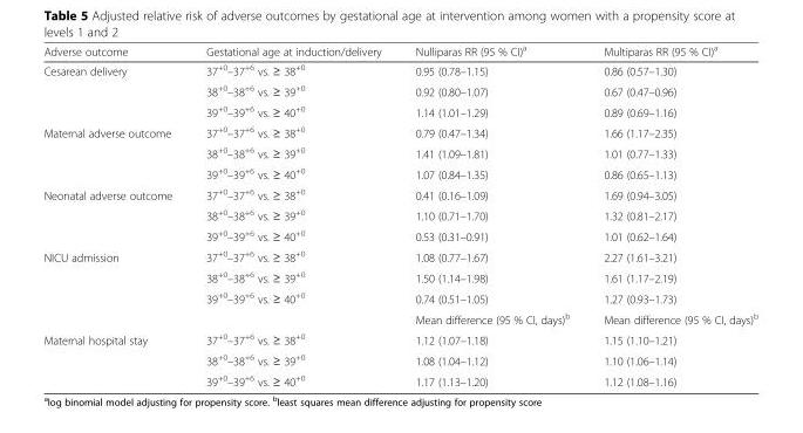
<table><thead><tr><td>Adverse outcome</td><td>Gestational age at induction/delivery</td><td>Nulliparas RR (95 % CI)<sup>a</sup></td><td>Multiparas RR (95 % CI)<sup>a</sup></td></tr></thead><tbody><tr><td rowspan="3">Cesarean delivery</td><td>37<sup>+0</sup>–37<sup>+6</sup> vs. ≥ 38<sup>+0</sup></td><td>0.95 (0.78–1.15)</td><td>0.86 (0.57–1.30)</td></tr><tr><td>38<sup>+0</sup>–38<sup>+6</sup> vs. ≥ 39<sup>+0</sup></td><td>0.92 (0.80–1.07)</td><td>0.67 (0.47–0.96)</td></tr><tr><td>39<sup>+0</sup>–39<sup>+6</sup> vs. ≥ 40<sup>+0</sup></td><td>1.14 (1.01–1.29)</td><td>0.89 (0.69–1.16)</td></tr><tr><td rowspan="3">Maternal adverse outcome</td><td>37<sup>+0</sup>–37<sup>+6</sup> vs. ≥ 38<sup>+0</sup></td><td>0.79 (0.47–1.34)</td><td>1.66 (1.17–2.35)</td></tr><tr><td>38<sup>+0</sup>–38<sup>+6</sup> vs. ≥ 39<sup>+0</sup></td><td>1.41 (1.09–1.81)</td><td>1.01 (0.77–1.33)</td></tr><tr><td>39<sup>+0</sup>–39<sup>+6</sup> vs. ≥ 40<sup>+0</sup></td><td>1.07 (0.84–1.35)</td><td>0.86 (0.65–1.13)</td></tr><tr><td rowspan="3">Neonatal adverse outcome</td><td>37<sup>+0</sup>–37<sup>+6</sup> vs. ≥ 38<sup>+0</sup></td><td>0.41 (0.16–1.09)</td><td>1.69 (0.94–3.05)</td></tr><tr><td>38<sup>+0</sup>–38<sup>+6</sup> vs. ≥ 39<sup>+0</sup></td><td>1.10 (0.71–1.70)</td><td>1.32 (0.81–2.17)</td></tr><tr><td>39<sup>+0</sup>–39<sup>+6</sup> vs. ≥ 40<sup>+0</sup></td><td>0.53 (0.31–0.91)</td><td>1.01 (0.62–1.64)</td></tr><tr><td rowspan="4">NICU admission</td><td>37<sup>+0</sup>–37<sup>+6</sup> vs. ≥ 38<sup>+0</sup></td><td>1.08 (0.77–1.67)</td><td>2.27 (1.61–3.21)</td></tr><tr><td>38<sup>+0</sup>–38<sup>+6</sup> vs. ≥ 39<sup>+0</sup></td><td>1.50 (1.14–1.98)</td><td>1.61 (1.17–2.19)</td></tr><tr><td>39<sup>+0</sup>–39<sup>+6</sup> vs. ≥ 40<sup>+0</sup></td><td>0.74 (0.51–1.05)</td><td>1.27 (0.93–1.73)</td></tr><tr><td></td><td>Mean difference (95 % CI, days)<sup>b</sup></td><td>Mean difference (95 % CI, days)<sup>b</sup></td></tr><tr><td rowspan="3">Maternal hospital stay</td><td>37<sup>+0</sup>–37<sup>+6</sup> vs. ≥ 38<sup>+0</sup></td><td>1.12 (1.07–1.18)</td><td>1.15 (1.10–1.21)</td></tr><tr><td>38<sup>+0</sup>–38<sup>+6</sup> vs. ≥ 39<sup>+0</sup></td><td>1.08 (1.04–1.12)</td><td>1.10 (1.06–1.14)</td></tr><tr><td>39<sup>+0</sup>–39<sup>+6</sup> vs. ≥ 40<sup>+0</sup></td><td>1.17 (1.13–1.20)</td><td>1.12 (1.08–1.16)</td></tr></tbody></table>